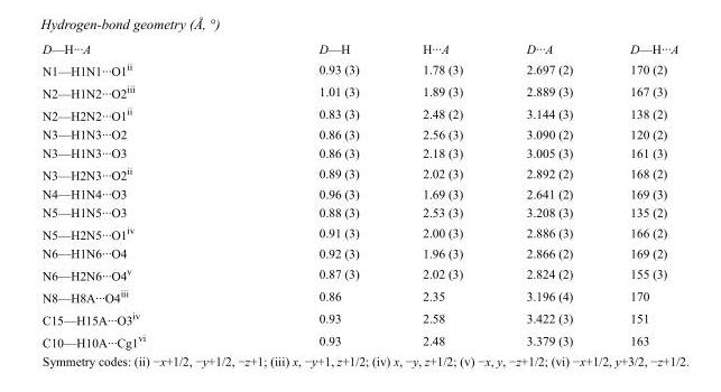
<table><tbody><tr><td>D—H···A</td><td>D—H</td><td>H···A</td><td>D···A</td><td>D—H···A</td></tr><tr><td>N1—H1N1···O1<sup>ii</sup></td><td>0.93 (3)</td><td>1.78 (3)</td><td>2.697 (2)</td><td>170 (2)</td></tr><tr><td>N2—H1N2···O2<sup>iii</sup></td><td>1.01 (3)</td><td>1.89 (3)</td><td>2.889 (3)</td><td>167 (3)</td></tr><tr><td>N2—H2N2···O1<sup>ii</sup></td><td>0.83 (3)</td><td>2.48 (2)</td><td>3.144 (3)</td><td>138 (2)</td></tr><tr><td>N3—H1N3···O2</td><td>0.86 (3)</td><td>2.56 (3)</td><td>3.090 (2)</td><td>120 (2)</td></tr><tr><td>N3—H1N3···O3</td><td>0.86 (3)</td><td>2.18 (3)</td><td>3.005 (3)</td><td>161 (3)</td></tr><tr><td>N3—H2N3···O2<sup>ii</sup></td><td>0.89 (3)</td><td>2.02 (3)</td><td>2.892 (2)</td><td>168 (2)</td></tr><tr><td>N4—H1N4···O3</td><td>0.96 (3)</td><td>1.69 (3)</td><td>2.641 (2)</td><td>169 (3)</td></tr><tr><td>N5—H1N5···O3</td><td>0.88 (3)</td><td>2.53 (3)</td><td>3.208 (3)</td><td>135 (2)</td></tr><tr><td>N5—H2N5···O1<sup>iv</sup></td><td>0.91 (3)</td><td>2.00 (3)</td><td>2.886 (3)</td><td>166 (2)</td></tr><tr><td>N6—H1N6···O4</td><td>0.92 (3)</td><td>1.96 (3)</td><td>2.866 (2)</td><td>169 (2)</td></tr><tr><td>N6—H2N6···O4<sup>v</sup></td><td>0.87 (3)</td><td>2.02 (3)</td><td>2.824 (2)</td><td>155 (3)</td></tr><tr><td>N8—H8A···O4<sup>iii</sup></td><td>0.86</td><td>2.35</td><td>3.196 (4)</td><td>170</td></tr><tr><td>C15—H15A···O3<sup>iv</sup></td><td>0.93</td><td>2.58</td><td>3.422 (3)</td><td>151</td></tr><tr><td>C10—H10A···Cg1<sup>vi</sup></td><td>0.93</td><td>2.48</td><td>3.379 (3)</td><td>163</td></tr></tbody></table>